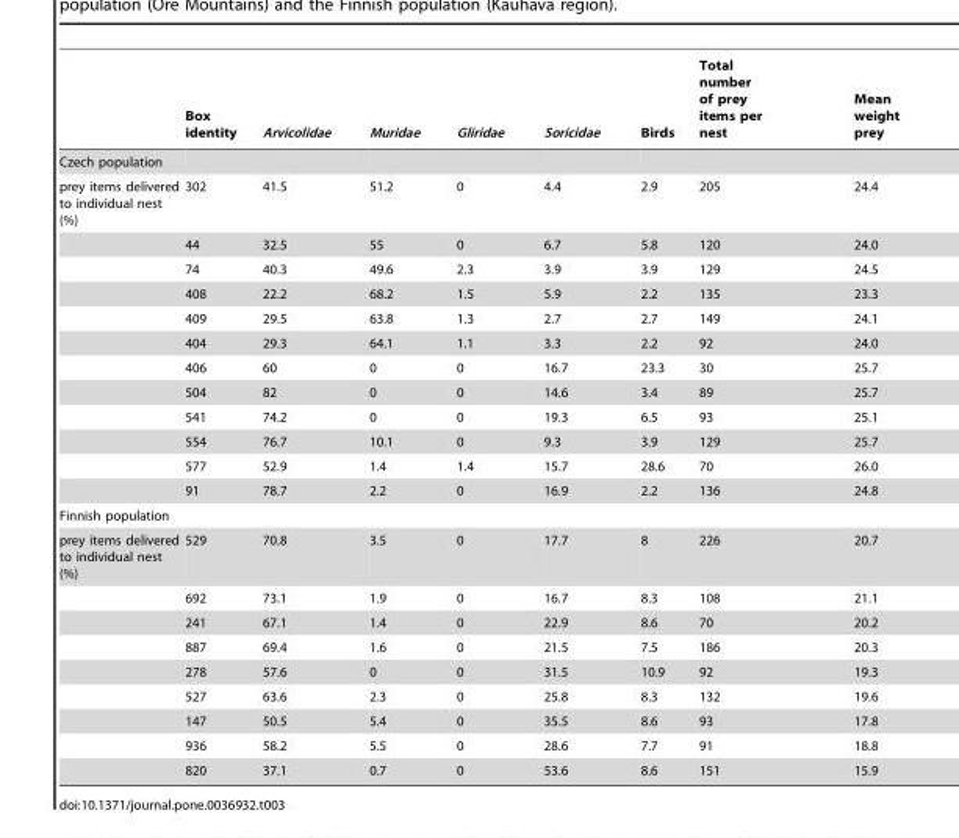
<table><thead><tr><td></td><td>Box identity</td><td>Arvicolidae</td><td>Muridae</td><td>Gliridae</td><td>Soricidae</td><td>Birds</td><td>Total number of prey items per nest</td><td>Mean weight prey</td></tr></thead><tbody><tr><td colspan="9">Czech population</td></tr><tr><td rowspan="12">prey items delivered to individual nest (%)</td><td>302</td><td>41.5</td><td>51.2</td><td>0</td><td>4.4</td><td>2.9</td><td>205</td><td>24.4</td></tr><tr><td>44</td><td>32.5</td><td>55</td><td>0</td><td>6.7</td><td>5.8</td><td>120</td><td>24.0</td></tr><tr><td>74</td><td>40.3</td><td>49.6</td><td>2.3</td><td>3.9</td><td>3.9</td><td>129</td><td>24.5</td></tr><tr><td>408</td><td>22.2</td><td>68.2</td><td>1.5</td><td>5.9</td><td>2.2</td><td>135</td><td>23.3</td></tr><tr><td>409</td><td>29.5</td><td>63.8</td><td>1.3</td><td>2.7</td><td>2.7</td><td>149</td><td>24.1</td></tr><tr><td>404</td><td>29.3</td><td>64.1</td><td>1.1</td><td>3.3</td><td>2.2</td><td>92</td><td>24.0</td></tr><tr><td>406</td><td>60</td><td>0</td><td>0</td><td>16.7</td><td>23.3</td><td>30</td><td>25.7</td></tr><tr><td>504</td><td>82</td><td>0</td><td>0</td><td>14.6</td><td>3.4</td><td>89</td><td>25.7</td></tr><tr><td>541</td><td>74.2</td><td>0</td><td>0</td><td>19.3</td><td>6.5</td><td>93</td><td>25.1</td></tr><tr><td>554</td><td>76.7</td><td>10.1</td><td>0</td><td>9.3</td><td>3.9</td><td>129</td><td>25.7</td></tr><tr><td>577</td><td>52.9</td><td>1.4</td><td>1.4</td><td>15.7</td><td>28.6</td><td>70</td><td>26.0</td></tr><tr><td>91</td><td>78.7</td><td>2.2</td><td>0</td><td>16.9</td><td>2.2</td><td>136</td><td>24.8</td></tr><tr><td colspan="9">Finnish population</td></tr><tr><td rowspan="9">prey items delivered to individual nest (%)</td><td>529</td><td>70.8</td><td>3.5</td><td>0</td><td>17.7</td><td>8</td><td>226</td><td>20.7</td></tr><tr><td>692</td><td>73.1</td><td>1.9</td><td>0</td><td>16.7</td><td>8.3</td><td>108</td><td>21.1</td></tr><tr><td>241</td><td>67.1</td><td>1.4</td><td>0</td><td>22.9</td><td>8.6</td><td>70</td><td>20.2</td></tr><tr><td>887</td><td>69.4</td><td>1.6</td><td>0</td><td>21.5</td><td>7.5</td><td>186</td><td>20.3</td></tr><tr><td>278</td><td>57.6</td><td>0</td><td>0</td><td>31.5</td><td>10.9</td><td>92</td><td>19.3</td></tr><tr><td>527</td><td>63.6</td><td>2.3</td><td>0</td><td>25.8</td><td>8.3</td><td>132</td><td>19.6</td></tr><tr><td>147</td><td>50.5</td><td>5.4</td><td>0</td><td>35.5</td><td>8.6</td><td>93</td><td>17.8</td></tr><tr><td>936</td><td>58.2</td><td>5.5</td><td>0</td><td>28.6</td><td>7.7</td><td>91</td><td>18.8</td></tr><tr><td>820</td><td>37.1</td><td>0.7</td><td>0</td><td>53.6</td><td>8.6</td><td>151</td><td>15.9</td></tr></tbody></table>